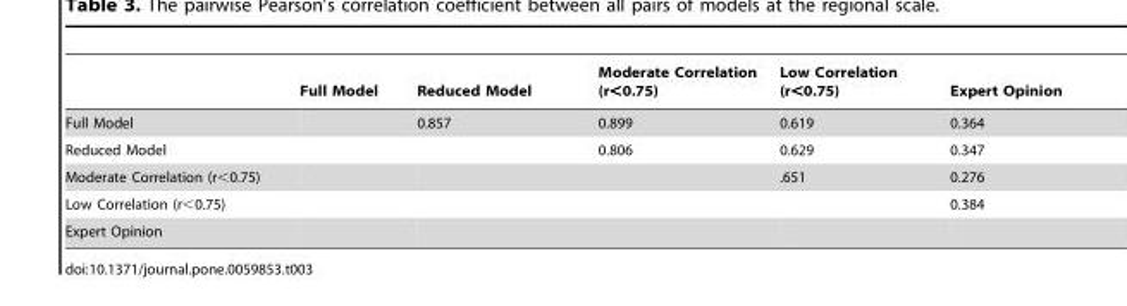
<table><thead><tr><td></td><td>Full Model</td><td>Reduced Model</td><td>Moderate Correlation (r&lt;0.75)</td><td>Low Correlation (r&lt;0.75)</td><td>Expert Opinion</td></tr></thead><tbody><tr><td>Full Model</td><td></td><td>0.857</td><td>0.899</td><td>0.619</td><td>0.364</td></tr><tr><td>Reduced Model</td><td></td><td></td><td>0.806</td><td>0.629</td><td>0.347</td></tr><tr><td>Moderate Correlation (r&lt;0.75)</td><td></td><td></td><td></td><td>.651</td><td>0.276</td></tr><tr><td>Low Correlation (r&lt;0.75)</td><td></td><td></td><td></td><td></td><td>0.384</td></tr><tr><td>Expert Opinion</td><td></td><td></td><td></td><td></td><td></td></tr></tbody></table>